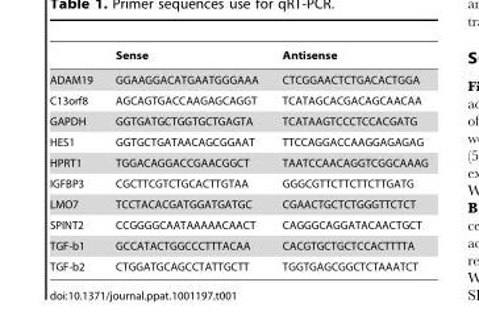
<table><thead><tr><td></td><td>Sense</td><td>Antisense</td></tr></thead><tbody><tr><td>ADAM19</td><td>GGAAGGACATGAATGGGAAA</td><td>CTCGGAACTCTGACACTGGA</td></tr><tr><td>C13orf8</td><td>AGCAGTGACCAAGAGCAGGT</td><td>TCATAGCACGACAGCAACAA</td></tr><tr><td>GAPDH</td><td>GGTGATGCTGGTGCTGAGTA</td><td>TCATAAGTCCCTCCACGATG</td></tr><tr><td>HES1</td><td>GGTGCTGATAACAGCGGAAT</td><td>TTCCAGGACCAAGGAGAGAG</td></tr><tr><td>HPRT1</td><td>TGGACAGGACCGAACGGCT</td><td>TAATCCAACAGGTCGGCAAAG</td></tr><tr><td>IGFBP3</td><td>CGCTTCGTCTGCACTTGTAA</td><td>GGGCGTTCTTCTTCTTGATG</td></tr><tr><td>LMO7</td><td>TCCTACACGATGGATGATGC</td><td>CGAACTGCTCTGGGTTCTCT</td></tr><tr><td>SPINT2</td><td>CCGGGGCAATAAAAACAACT</td><td>CAGGGCAGGATACAACTGCT</td></tr><tr><td>TGF-b1</td><td>GCCATACTGGCCCTTTACAA</td><td>CACGTGCTGCTCCACTTTTA</td></tr><tr><td>TGF-b2</td><td>CTGGATGCAGCCTATTGCTT</td><td>TGGTGAGCGGCTCTAAATCT</td></tr></tbody></table>